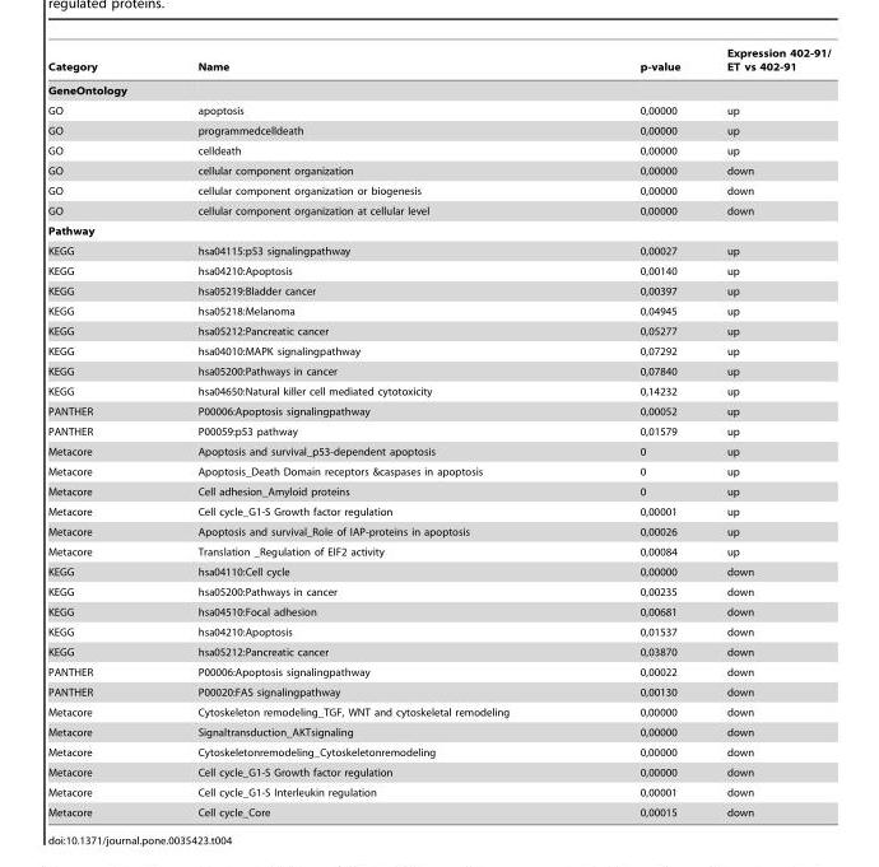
<table><thead><tr><td>Category</td><td>Name</td><td>p-value</td><td>Expression 402-91/ ET vs 402-91</td></tr></thead><tbody><tr><td colspan="4">GeneOntology</td></tr><tr><td>GO</td><td>apoptosis</td><td>0,00000</td><td>up</td></tr><tr><td>GO</td><td>programmedcelldeath</td><td>0,00000</td><td>up</td></tr><tr><td>GO</td><td>celldeath</td><td>0,00000</td><td>up</td></tr><tr><td>GO</td><td>cellular component organization</td><td>0,00000</td><td>down</td></tr><tr><td>GO</td><td>cellular component organization or biogenesis</td><td>0,00000</td><td>down</td></tr><tr><td>GO</td><td>cellular component organization at cellular level</td><td>0,00000</td><td>down</td></tr><tr><td colspan="4">Pathway</td></tr><tr><td>KEGG</td><td>hsa04115:p53 signalingpathway</td><td>0,00027</td><td>up</td></tr><tr><td>KEGG</td><td>hsa04210:Apoptosis</td><td>0,00140</td><td>up</td></tr><tr><td>KEGG</td><td>hsa05219:Bladder cancer</td><td>0,00397</td><td>up</td></tr><tr><td>KEGG</td><td>hsa05218:Melanoma</td><td>0,04945</td><td>up</td></tr><tr><td>KEGG</td><td>hsa05212:Pancreatic cancer</td><td>0,05277</td><td>up</td></tr><tr><td>KEGG</td><td>hsa04010:MAPK signalingpathway</td><td>0,07292</td><td>up</td></tr><tr><td>KEGG</td><td>hsa05200:Pathways in cancer</td><td>0,07840</td><td>up</td></tr><tr><td>KEGG</td><td>hsa04650:Natural killer cell mediated cytotoxicity</td><td>0,14232</td><td>up</td></tr><tr><td>PANTHER</td><td>P00006:Apoptosis signalingpathway</td><td>0,00052</td><td>up</td></tr><tr><td>PANTHER</td><td>P00059:p53 pathway</td><td>0,01579</td><td>up</td></tr><tr><td>Metacore</td><td>Apoptosis and survival_p53-dependent apoptosis</td><td>0</td><td>up</td></tr><tr><td>Metacore</td><td>Apoptosis_Death Domain receptors &amp;caspases in apoptosis</td><td>0</td><td>up</td></tr><tr><td>Metacore</td><td>Cell adhesion_Amyloid proteins</td><td>0</td><td>up</td></tr><tr><td>Metacore</td><td>Cell cycle_G1-S Growth factor regulation</td><td>0,00001</td><td>up</td></tr><tr><td>Metacore</td><td>Apoptosis and survival_Role of IAP-proteins in apoptosis</td><td>0,00026</td><td>up</td></tr><tr><td>Metacore</td><td>Translation _Regulation of EIF2 activity</td><td>0,00084</td><td>up</td></tr><tr><td>KEGG</td><td>hsa04110:Cell cycle</td><td>0,00000</td><td>down</td></tr><tr><td>KEGG</td><td>hsa05200:Pathways in cancer</td><td>0,00235</td><td>down</td></tr><tr><td>KEGG</td><td>hsa04510:Focal adhesion</td><td>0,00681</td><td>down</td></tr><tr><td>KEGG</td><td>hsa04210:Apoptosis</td><td>0,01537</td><td>down</td></tr><tr><td>KEGG</td><td>hsa05212:Pancreatic cancer</td><td>0,03870</td><td>down</td></tr><tr><td>PANTHER</td><td>P00006:Apoptosis signalingpathway</td><td>0,00022</td><td>down</td></tr><tr><td>PANTHER</td><td>P00020:FAS signalingpathway</td><td>0,00130</td><td>down</td></tr><tr><td>Metacore</td><td>Cytoskeleton remodeling_TGF, WNT and cytoskeletal remodeling</td><td>0,00000</td><td>down</td></tr><tr><td>Metacore</td><td>Signaltransduction_AKTsignaling</td><td>0,00000</td><td>down</td></tr><tr><td>Metacore</td><td>Cytoskeletonremodeling_Cytoskeletonremodeling</td><td>0,00000</td><td>down</td></tr><tr><td>Metacore</td><td>Cell cycle_G1-S Growth factor regulation</td><td>0,00000</td><td>down</td></tr><tr><td>Metacore</td><td>Cell cycle_G1-S Interleukin regulation</td><td>0,00001</td><td>down</td></tr><tr><td>Metacore</td><td>Cell cycle_Core</td><td>0,00015</td><td>down</td></tr></tbody></table>